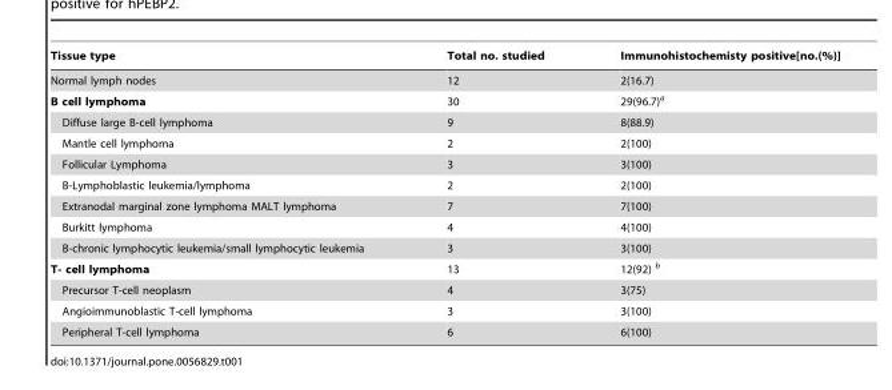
<table><thead><tr><td>Tissue type</td><td>Total no. studied</td><td>Immunohistochemisty positive[no.(%)]</td></tr></thead><tbody><tr><td>Normal lymph nodes</td><td>12</td><td>2(16.7)</td></tr><tr><td>B cell lymphoma</td><td>30</td><td>29(96.7)<sup>a</sup></td></tr><tr><td>Diffuse large B-cell lymphoma</td><td>9</td><td>8(88.9)</td></tr><tr><td>Mantle cell lymphoma</td><td>2</td><td>2(100)</td></tr><tr><td>Follicular Lymphoma</td><td>3</td><td>3(100)</td></tr><tr><td>B-Lymphoblastic leukemia/lymphoma</td><td>2</td><td>2(100)</td></tr><tr><td>Extranodal marginal zone lymphoma MALT lymphoma</td><td>7</td><td>7(100)</td></tr><tr><td>Burkitt lymphoma</td><td>4</td><td>4(100)</td></tr><tr><td>B-chronic lymphocytic leukemia/small lymphocytic leukemia</td><td>3</td><td>3(100)</td></tr><tr><td>T- cell lymphoma</td><td>13</td><td>12(92) <sup>b</sup></td></tr><tr><td>Precursor T-cell neoplasm</td><td>4</td><td>3(75)</td></tr><tr><td>Angioimmunoblastic T-cell lymphoma</td><td>3</td><td>3(100)</td></tr><tr><td>Peripheral T-cell lymphoma</td><td>6</td><td>6(100)</td></tr></tbody></table>